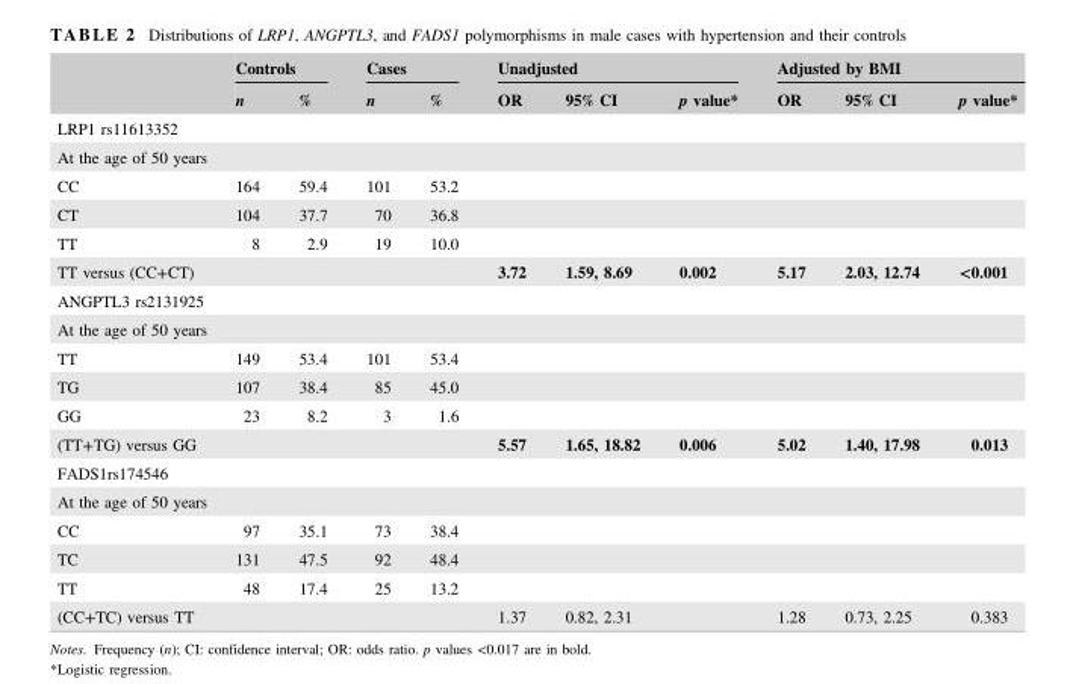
<table><thead><tr><td rowspan="2"></td><td colspan="2">Controls</td><td colspan="2">Cases</td><td colspan="3">Unadjusted</td><td colspan="3">Adjusted by BMI</td></tr><tr><td>n</td><td>%</td><td>n</td><td>%</td><td>OR</td><td>95% CI</td><td>p value*</td><td>OR</td><td>95% CI</td><td>p value*</td></tr></thead><tbody><tr><td colspan="11">LRP1 rs11613352</td></tr><tr><td colspan="11">At the age of 50 years</td></tr><tr><td>CC</td><td>164</td><td>59.4</td><td>101</td><td>53.2</td><td></td><td></td><td></td><td></td><td></td><td></td></tr><tr><td>CT</td><td>104</td><td>37.7</td><td>70</td><td>36.8</td><td></td><td></td><td></td><td></td><td></td><td></td></tr><tr><td>TT</td><td>8</td><td>2.9</td><td>19</td><td>10.0</td><td></td><td></td><td></td><td></td><td></td><td></td></tr><tr><td>TT versus (CC+CT)</td><td></td><td></td><td></td><td></td><td>3.72</td><td>1.59, 8.69</td><td>0.002</td><td>5.17</td><td>2.03, 12.74</td><td>&lt;0.001</td></tr><tr><td colspan="11">ANGPTL3 rs2131925</td></tr><tr><td colspan="11">At the age of 50 years</td></tr><tr><td>TT</td><td>149</td><td>53.4</td><td>101</td><td>53.4</td><td></td><td></td><td></td><td></td><td></td><td></td></tr><tr><td>TG</td><td>107</td><td>38.4</td><td>85</td><td>45.0</td><td></td><td></td><td></td><td></td><td></td><td></td></tr><tr><td>GG</td><td>23</td><td>8.2</td><td>3</td><td>1.6</td><td></td><td></td><td></td><td></td><td></td><td></td></tr><tr><td>(TT+TG) versus GG</td><td></td><td></td><td></td><td></td><td>5.57</td><td>1.65, 18.82</td><td>0.006</td><td>5.02</td><td>1.40, 17.98</td><td>0.013</td></tr><tr><td colspan="11">FADS1rs174546</td></tr><tr><td colspan="11">At the age of 50 years</td></tr><tr><td>CC</td><td>97</td><td>35.1</td><td>73</td><td>38.4</td><td></td><td></td><td></td><td></td><td></td><td></td></tr><tr><td>TC</td><td>131</td><td>47.5</td><td>92</td><td>48.4</td><td></td><td></td><td></td><td></td><td></td><td></td></tr><tr><td>TT</td><td>48</td><td>17.4</td><td>25</td><td>13.2</td><td></td><td></td><td></td><td></td><td></td><td></td></tr><tr><td>(CC+TC) versus TT</td><td></td><td></td><td></td><td></td><td>1.37</td><td>0.82, 2.31</td><td></td><td>1.28</td><td>0.73, 2.25</td><td>0.383</td></tr></tbody></table>